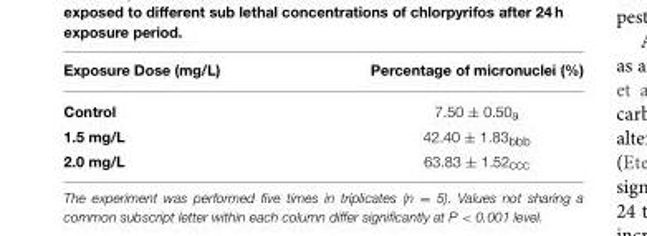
<table><thead><tr><td>Exposure Dose (mg/L)</td><td>Percentage of micronuclei (%)</td></tr></thead><tbody><tr><td>Control</td><td>7.50 ± 0.50<sub>a</sub></td></tr><tr><td>1.5 mg/L</td><td>42.40 ± 1.83<sub>bbb</sub></td></tr><tr><td>2.0 mg/L</td><td>63.83 ± 1.52<sub>ccc</sub></td></tr></tbody></table>